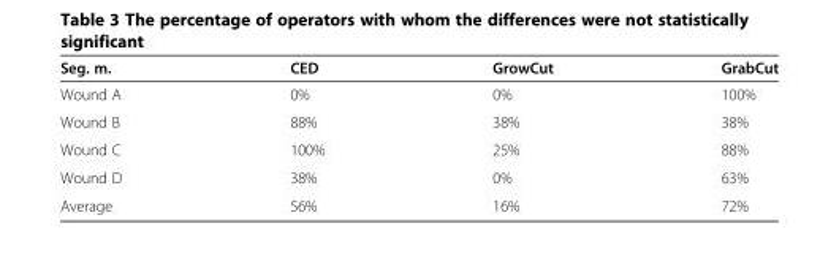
<table><thead><tr><td>Seg. m.</td><td>CED</td><td>GrowCut</td><td>GrabCut</td></tr></thead><tbody><tr><td>Wound A</td><td>0%</td><td>0%</td><td>100%</td></tr><tr><td>Wound B</td><td>88%</td><td>38%</td><td>38%</td></tr><tr><td>Wound C</td><td>100%</td><td>25%</td><td>88%</td></tr><tr><td>Wound D</td><td>38%</td><td>0%</td><td>63%</td></tr><tr><td>Average</td><td>56%</td><td>16%</td><td>72%</td></tr></tbody></table>